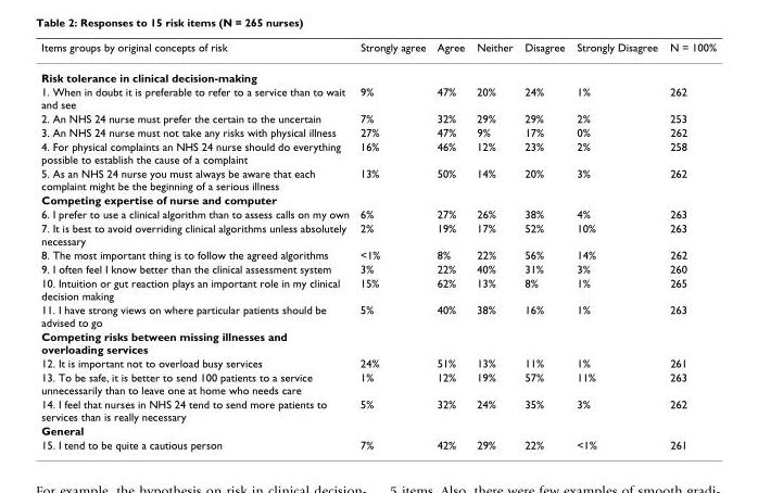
<table><thead><tr><td>Items groups by original concepts of risk</td><td>Strongly agree</td><td>Agree</td><td>Neither</td><td>Disagree</td><td>Strongly Disagree</td><td>N = 100%</td></tr></thead><tbody><tr><td colspan="7">Risk tolerance in clinical decision-making</td></tr><tr><td>1. When in doubt it is preferable to refer to a service than to wait and see</td><td>9%</td><td>47%</td><td>20%</td><td>24%</td><td>1%</td><td>262</td></tr><tr><td>2. An NHS 24 nurse must prefer the certain to the uncertain</td><td>7%</td><td>32%</td><td>29%</td><td>29%</td><td>2%</td><td>253</td></tr><tr><td>3. An NHS 24 nurse must not take any risks with physical illness</td><td>27%</td><td>47%</td><td>9%</td><td>17%</td><td>0%</td><td>262</td></tr><tr><td>4. For physical complaints an NHS 24 nurse should do everything possible to establish the cause of a complaint</td><td>16%</td><td>46%</td><td>12%</td><td>23%</td><td>2%</td><td>258</td></tr><tr><td>5. As an NHS 24 nurse you must always be aware that each complaint might be the beginning of a serious illness</td><td>13%</td><td>50%</td><td>14%</td><td>20%</td><td>3%</td><td>262</td></tr><tr><td colspan="7">Competing expertise of nurse and computer</td></tr><tr><td>6. I prefer to use a clinical algorithm than to assess calls on my own</td><td>6%</td><td>27%</td><td>26%</td><td>38%</td><td>4%</td><td>263</td></tr><tr><td>7. It is best to avoid overriding clinical algorithms unless absolutely necessary</td><td>2%</td><td>19%</td><td>17%</td><td>52%</td><td>10%</td><td>263</td></tr><tr><td>8. The most important thing is to follow the agreed algorithms</td><td>&lt;1%</td><td>8%</td><td>22%</td><td>56%</td><td>14%</td><td>262</td></tr><tr><td>9. I often feel I know better than the clinical assessment system</td><td>3%</td><td>22%</td><td>40%</td><td>31%</td><td>3%</td><td>260</td></tr><tr><td>10. Intuition or gut reaction plays an important role in my clinical decision making</td><td>15%</td><td>62%</td><td>13%</td><td>8%</td><td>1%</td><td>265</td></tr><tr><td>11. I have strong views on where particular patients should be advised to go</td><td>5%</td><td>40%</td><td>38%</td><td>16%</td><td>1%</td><td>263</td></tr><tr><td colspan="7">Competing risks between missing illnesses and overloading services</td></tr><tr><td>12. It is important not to overload busy services</td><td>24%</td><td>51%</td><td>13%</td><td>11%</td><td>1%</td><td>261</td></tr><tr><td>13. To be safe, it is better to send 100 patients to a service unnecessarily than to leave one at home who needs care</td><td>1%</td><td>12%</td><td>19%</td><td>57%</td><td>11%</td><td>263</td></tr><tr><td>14. I feel that nurses in NHS 24 tend to send more patients to services than is really necessary</td><td>5%</td><td>32%</td><td>24%</td><td>35%</td><td>3%</td><td>262</td></tr><tr><td colspan="7">General</td></tr><tr><td>15. I tend to be quite a cautious person</td><td>7%</td><td>42%</td><td>29%</td><td>22%</td><td>&lt;1%</td><td>261</td></tr></tbody></table>